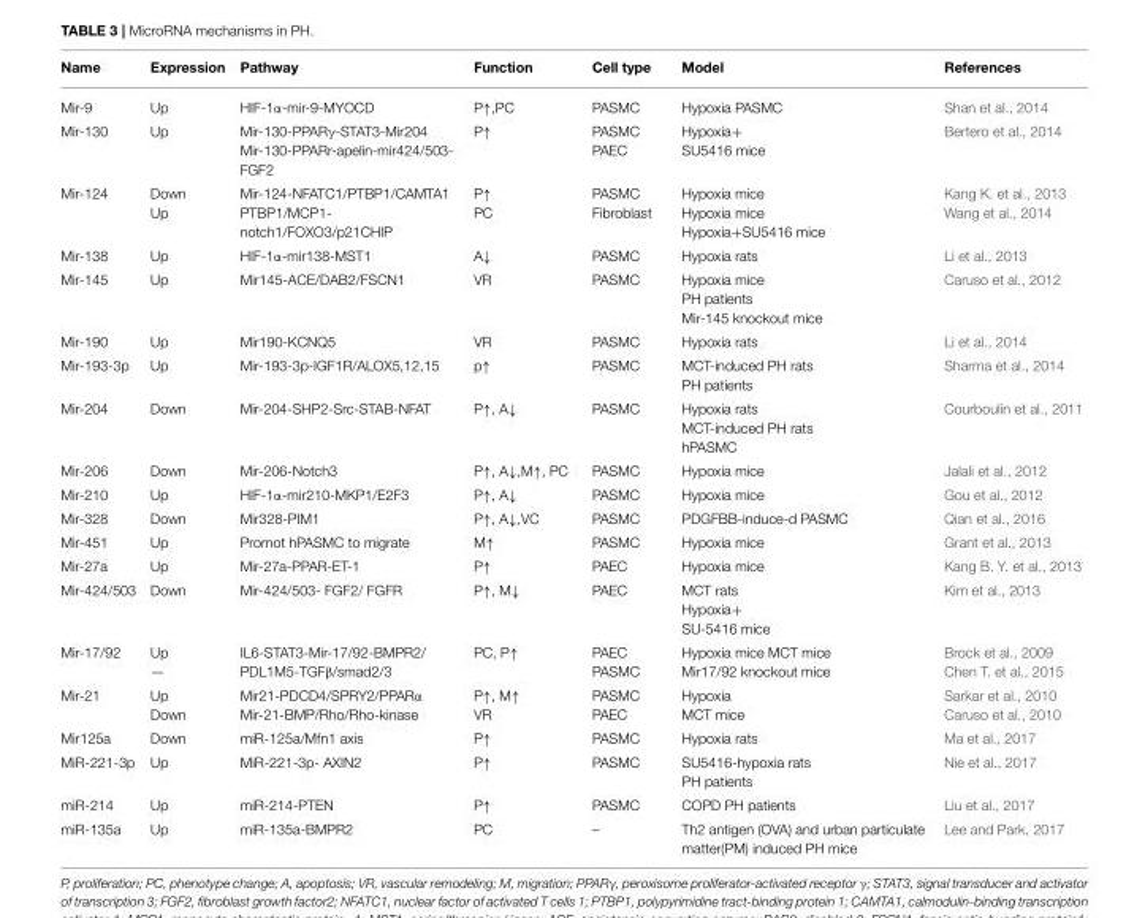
<table><thead><tr><td>Name</td><td>Expression</td><td>Pathway</td><td>Function</td><td>Cell type</td><td>Model</td><td>References</td></tr></thead><tbody><tr><td>Mir-9</td><td>Up</td><td>HIF-1α-mir-9-MYOCD</td><td>P↑,PC</td><td>PASMC</td><td>Hypoxia PASMC</td><td>Shan et al., 2014</td></tr><tr><td>Mir-130</td><td>Up</td><td>Mir-130-PPARγ-STAT3-Mir204 Mir-130-PPARr-apelin-mir424/503- FGF2</td><td>P↑</td><td>PASMC PAEC</td><td>Hypoxia+ SU5416 mice</td><td>Bertero et al., 2014</td></tr><tr><td>Mir-124</td><td>Down Up</td><td>Mir-124-NFATC1/PTBP1/CAMTA1 PTBP1/MCP1- notch1/FOXO3/p21CHIP</td><td>P↑ PC</td><td>PASMC Fibroblast</td><td>Hypoxia mice Hypoxia mice Hypoxia+SU5416 mice</td><td>Kang K. et al., 2013 Wang et al., 2014</td></tr><tr><td>Mir-138</td><td>Up</td><td>HIF-1α-mir138-MST1</td><td>A↓</td><td>PASMC</td><td>Hypoxia rats</td><td>Li et al., 2013</td></tr><tr><td>Mir-145</td><td>Up</td><td>Mir145-ACE/DAB2/FSCN1</td><td>VR</td><td>PASMC</td><td>Hypoxia mice PH patients Mir-145 knockout mice</td><td>Caruso et al., 2012</td></tr><tr><td>Mir-190</td><td>Up</td><td>Mir190-KCNQ5</td><td>VR</td><td>PASMC</td><td>Hypoxia rats</td><td>Li et al., 2014</td></tr><tr><td>Mir-193-3p</td><td>Up</td><td>Mir-193-3p-IGF1R/ALOX5,12,15</td><td>p↑</td><td>PASMC</td><td>MCT-induced PH rats PH patients</td><td>Sharma et al., 2014</td></tr><tr><td>Mir-204</td><td>Down</td><td>Mir-204-SHP2-Src-STAB-NFAT</td><td>P↑, A↓</td><td>PASMC</td><td>Hypoxia rats MCT-induced PH rats hPASMC</td><td>Courboulin et al., 2011</td></tr><tr><td>Mir-206</td><td>Down</td><td>Mir-206-Notch3</td><td>P↑, A↓,M↑, PC</td><td>PASMC</td><td>Hypoxia mice</td><td>Jalali et al., 2012</td></tr><tr><td>Mir-210</td><td>Up</td><td>HIF-1α-mir210-MKP1/E2F3</td><td>P↑, A↓</td><td>PASMC</td><td>Hypoxia mice</td><td>Gou et al., 2012</td></tr><tr><td>Mir-328</td><td>Down</td><td>Mir328-PIM1</td><td>P↑, A↓,VC</td><td>PASMC</td><td>PDGFBB-induce-d PASMC</td><td>Qian et al., 2016</td></tr><tr><td>Mir-451</td><td>Up</td><td>Promot hPASMC to migrate</td><td>M↑</td><td>PASMC</td><td>Hypoxia mice</td><td>Grant et al., 2013</td></tr><tr><td>Mir-27a</td><td>Up</td><td>Mir-27a-PPAR-ET-1</td><td>P↑</td><td>PAEC</td><td>Hypoxia mice</td><td>Kang B. Y. et al., 2013</td></tr><tr><td>Mir-424/503</td><td>Down</td><td>Mir-424/503- FGF2/ FGFR</td><td>P↑, M↓</td><td>PAEC</td><td>MCT rats Hypoxia+ SU-5416 mice</td><td>Kim et al., 2013</td></tr><tr><td>Mir-17/92</td><td>Up —</td><td>IL6-STAT3-Mir-17/92-BMPR2/ PDL1M5-TGFβ/smad2/3</td><td>PC, P↑</td><td>PAEC PASMC</td><td>Hypoxia mice MCT mice Mir17/92 knockout mice</td><td>Brock et al., 2009 Chen T. et al., 2015</td></tr><tr><td>Mir-21</td><td>Up Down</td><td>Mir21-PDCD4/SPRY2/PPARα Mir-21-BMP/Rho/Rho-kinase</td><td>P↑, M↑ VR</td><td>PASMC PAEC</td><td>Hypoxia MCT mice</td><td>Sarkar et al., 2010 Caruso et al., 2010</td></tr><tr><td>Mir125a</td><td>Down</td><td>miR-125a/Mfn1 axis</td><td>P↑</td><td>PASMC</td><td>Hypoxia rats</td><td>Ma et al., 2017</td></tr><tr><td>MiR-221-3p</td><td>Up</td><td>MiR-221-3p- AXIN2</td><td>P↑</td><td>PASMC</td><td>SU5416-hypoxia rats PH patients</td><td>Nie et al., 2017</td></tr><tr><td>miR-214</td><td>Up</td><td>miR-214-PTEN</td><td>P↑</td><td>PASMC</td><td>COPD PH patients</td><td>Liu et al., 2017</td></tr><tr><td>miR-135a</td><td>Up</td><td>miR-135a-BMPR2</td><td>PC</td><td>–</td><td>Th2 antigen (OVA) and urban particulate matter(PM) induced PH mice</td><td>Lee and Park, 2017</td></tr></tbody></table>